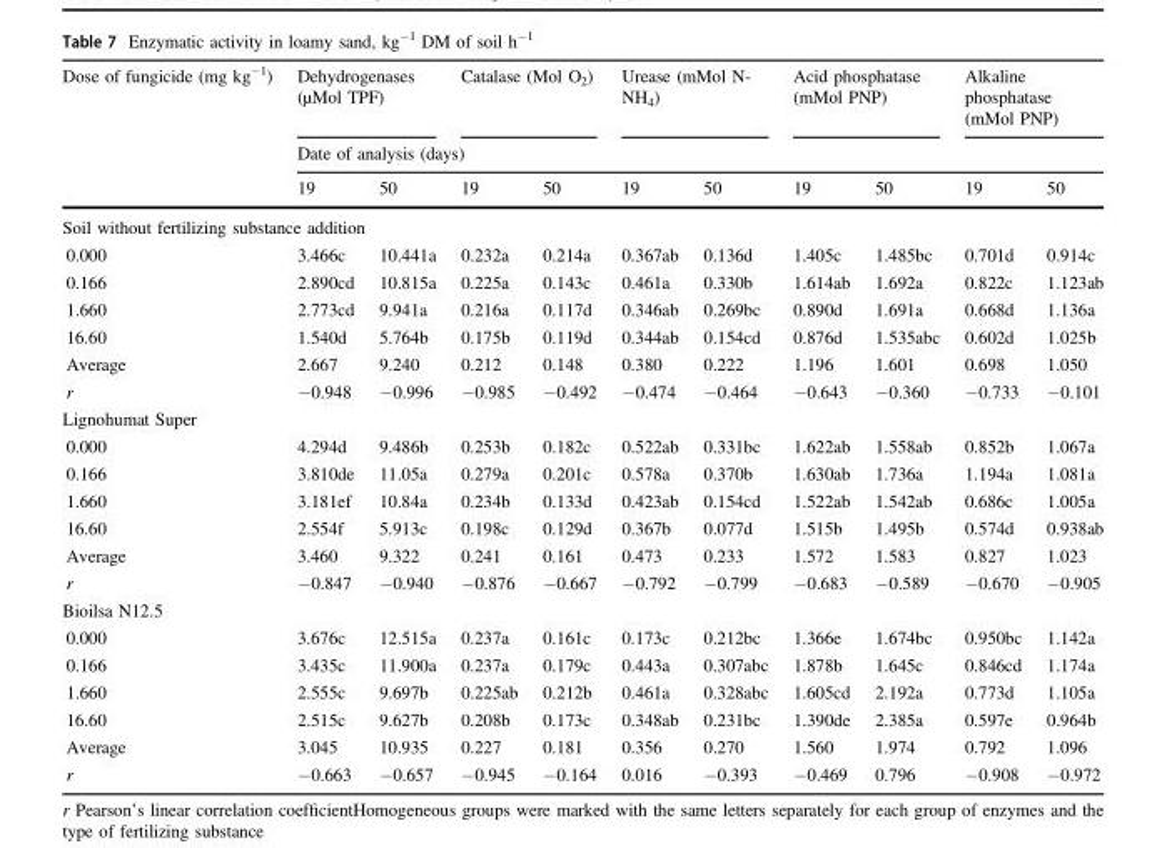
<table><thead><tr><td rowspan="3">Dose of fungicide (mg kg<sup>−1</sup>)</td><td colspan="2">Dehydrogenases (µMol TPF)</td><td colspan="2">Catalase (Mol O<sub>2</sub>)</td><td colspan="2">Urease (mMol N- NH<sub>4</sub>)</td><td colspan="2">Acid phosphatase (mMol PNP)</td><td colspan="2">Alkaline phosphatase (mMol PNP)</td></tr><tr><td colspan="10">Date of analysis (days)</td></tr><tr><td>19</td><td>50</td><td>19</td><td>50</td><td>19</td><td>50</td><td>19</td><td>50</td><td>19</td><td>50</td></tr></thead><tbody><tr><td colspan="11">Soil without fertilizing substance addition</td></tr><tr><td>0.000</td><td>3.466c</td><td>10.441a</td><td>0.232a</td><td>0.214a</td><td>0.367ab</td><td>0.136d</td><td>1.405c</td><td>1.485bc</td><td>0.701d</td><td>0.914c</td></tr><tr><td>0.166</td><td>2.890cd</td><td>10.815a</td><td>0.225a</td><td>0.143c</td><td>0.461a</td><td>0.330b</td><td>1.614ab</td><td>1.692a</td><td>0.822c</td><td>1.123ab</td></tr><tr><td>1.660</td><td>2.773cd</td><td>9.941a</td><td>0.216a</td><td>0.117d</td><td>0.346ab</td><td>0.269bc</td><td>0.890d</td><td>1.691a</td><td>0.668d</td><td>1.136a</td></tr><tr><td>16.60</td><td>1.540d</td><td>5.764b</td><td>0.175b</td><td>0.119d</td><td>0.344ab</td><td>0.154cd</td><td>0.876d</td><td>1.535abc</td><td>0.602d</td><td>1.025b</td></tr><tr><td>Average</td><td>2.667</td><td>9.240</td><td>0.212</td><td>0.148</td><td>0.380</td><td>0.222</td><td>1.196</td><td>1.601</td><td>0.698</td><td>1.050</td></tr><tr><td>r</td><td>−0.948</td><td>−0.996</td><td>−0.985</td><td>−0.492</td><td>−0.474</td><td>−0.464</td><td>−0.643</td><td>−0.360</td><td>−0.733</td><td>−0.101</td></tr><tr><td colspan="11">Lignohumat Super</td></tr><tr><td>0.000</td><td>4.294d</td><td>9.486b</td><td>0.253b</td><td>0.182c</td><td>0.522ab</td><td>0.331bc</td><td>1.622ab</td><td>1.558ab</td><td>0.852b</td><td>1.067a</td></tr><tr><td>0.166</td><td>3.810de</td><td>11.05a</td><td>0.279a</td><td>0.201c</td><td>0.578a</td><td>0.370b</td><td>1.630ab</td><td>1.736a</td><td>1.194a</td><td>1.081a</td></tr><tr><td>1.660</td><td>3.181ef</td><td>10.84a</td><td>0.234b</td><td>0.133d</td><td>0.423ab</td><td>0.154cd</td><td>1.522ab</td><td>1.542ab</td><td>0.686c</td><td>1.005a</td></tr><tr><td>16.60</td><td>2.554f</td><td>5.913c</td><td>0.198c</td><td>0.129d</td><td>0.367b</td><td>0.077d</td><td>1.515b</td><td>1.495b</td><td>0.574d</td><td>0.938ab</td></tr><tr><td>Average</td><td>3.460</td><td>9.322</td><td>0.241</td><td>0.161</td><td>0.473</td><td>0.233</td><td>1.572</td><td>1.583</td><td>0.827</td><td>1.023</td></tr><tr><td>r</td><td>−0.847</td><td>−0.940</td><td>−0.876</td><td>−0.667</td><td>−0.792</td><td>−0.799</td><td>−0.683</td><td>−0.589</td><td>−0.670</td><td>−0.905</td></tr><tr><td colspan="11">Bioilsa N12.5</td></tr><tr><td>0.000</td><td>3.676c</td><td>12.515a</td><td>0.237a</td><td>0.161c</td><td>0.173c</td><td>0.212bc</td><td>1.366e</td><td>1.674bc</td><td>0.950bc</td><td>1.142a</td></tr><tr><td>0.166</td><td>3.435c</td><td>11.900a</td><td>0.237a</td><td>0.179c</td><td>0.443a</td><td>0.307abc</td><td>1.878b</td><td>1.645c</td><td>0.846cd</td><td>1.174a</td></tr><tr><td>1.660</td><td>2.555c</td><td>9.697b</td><td>0.225ab</td><td>0.212b</td><td>0.461a</td><td>0.328abc</td><td>1.605cd</td><td>2.192a</td><td>0.773d</td><td>1.105a</td></tr><tr><td>16.60</td><td>2.515c</td><td>9.627b</td><td>0.208b</td><td>0.173c</td><td>0.348ab</td><td>0.231bc</td><td>1.390de</td><td>2.385a</td><td>0.597e</td><td>0.964b</td></tr><tr><td>Average</td><td>3.045</td><td>10.935</td><td>0.227</td><td>0.181</td><td>0.356</td><td>0.270</td><td>1.560</td><td>1.974</td><td>0.792</td><td>1.096</td></tr><tr><td>r</td><td>−0.663</td><td>−0.657</td><td>−0.945</td><td>−0.164</td><td>0.016</td><td>−0.393</td><td>−0.469</td><td>0.796</td><td>−0.908</td><td>−0.972</td></tr></tbody></table>